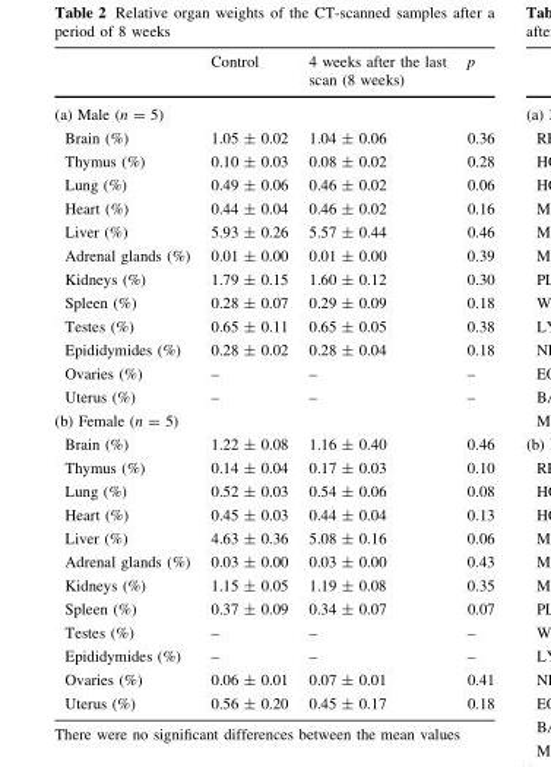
<table><thead><tr><td></td><td>Control</td><td>4 weeks after the last scan (8 weeks)</td><td>p</td></tr></thead><tbody><tr><td colspan="4">(a) Male (n = 5)</td></tr><tr><td>Brain (%)</td><td>1.05 ± 0.02</td><td>1.04 ± 0.06</td><td>0.36</td></tr><tr><td>Thymus (%)</td><td>0.10 ± 0.03</td><td>0.08 ± 0.02</td><td>0.28</td></tr><tr><td>Lung (%)</td><td>0.49 ± 0.06</td><td>0.46 ± 0.02</td><td>0.06</td></tr><tr><td>Heart (%)</td><td>0.44 ± 0.04</td><td>0.46 ± 0.02</td><td>0.16</td></tr><tr><td>Liver (%)</td><td>5.93 ± 0.26</td><td>5.57 ± 0.44</td><td>0.46</td></tr><tr><td>Adrenal glands (%)</td><td>0.01 ± 0.00</td><td>0.01 ± 0.00</td><td>0.39</td></tr><tr><td>Kidneys (%)</td><td>1.79 ± 0.15</td><td>1.60 ± 0.12</td><td>0.30</td></tr><tr><td>Spleen (%)</td><td>0.28 ± 0.07</td><td>0.29 ± 0.09</td><td>0.18</td></tr><tr><td>Testes (%)</td><td>0.65 ± 0.11</td><td>0.65 ± 0.05</td><td>0.38</td></tr><tr><td>Epididymides (%)</td><td>0.28 ± 0.02</td><td>0.28 ± 0.04</td><td>0.18</td></tr><tr><td>Ovaries (%)</td><td>–</td><td>–</td><td>–</td></tr><tr><td>Uterus (%)</td><td>–</td><td>–</td><td>–</td></tr><tr><td colspan="4">(b) Female (n = 5)</td></tr><tr><td>Brain (%)</td><td>1.22 ± 0.08</td><td>1.16 ± 0.40</td><td>0.46</td></tr><tr><td>Thymus (%)</td><td>0.14 ± 0.04</td><td>0.17 ± 0.03</td><td>0.10</td></tr><tr><td>Lung (%)</td><td>0.52 ± 0.03</td><td>0.54 ± 0.06</td><td>0.08</td></tr><tr><td>Heart (%)</td><td>0.45 ± 0.03</td><td>0.44 ± 0.04</td><td>0.13</td></tr><tr><td>Liver (%)</td><td>4.63 ± 0.36</td><td>5.08 ± 0.16</td><td>0.06</td></tr><tr><td>Adrenal glands (%)</td><td>0.03 ± 0.00</td><td>0.03 ± 0.00</td><td>0.43</td></tr><tr><td>Kidneys (%)</td><td>1.15 ± 0.05</td><td>1.19 ± 0.08</td><td>0.35</td></tr><tr><td>Spleen (%)</td><td>0.37 ± 0.09</td><td>0.34 ± 0.07</td><td>0.07</td></tr><tr><td>Testes (%)</td><td>–</td><td>–</td><td>–</td></tr><tr><td>Epididymides (%)</td><td>–</td><td>–</td><td>–</td></tr><tr><td>Ovaries (%)</td><td>0.06 ± 0.01</td><td>0.07 ± 0.01</td><td>0.41</td></tr><tr><td>Uterus (%)</td><td>0.56 ± 0.20</td><td>0.45 ± 0.17</td><td>0.18</td></tr></tbody></table>